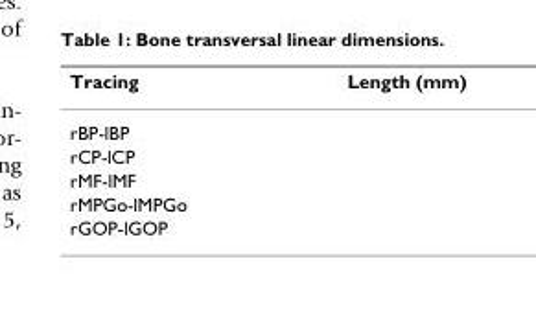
<table><thead><tr><td>Tracing</td><td>Length (mm)</td></tr></thead><tbody><tr><td colspan="2">rBP-lBP</td></tr><tr><td colspan="2">rCP-lCP</td></tr><tr><td colspan="2">rMF-lMF</td></tr><tr><td colspan="2">rMPGo-lMPGo</td></tr><tr><td>rGOP-lGOP</td><td></td></tr></tbody></table>